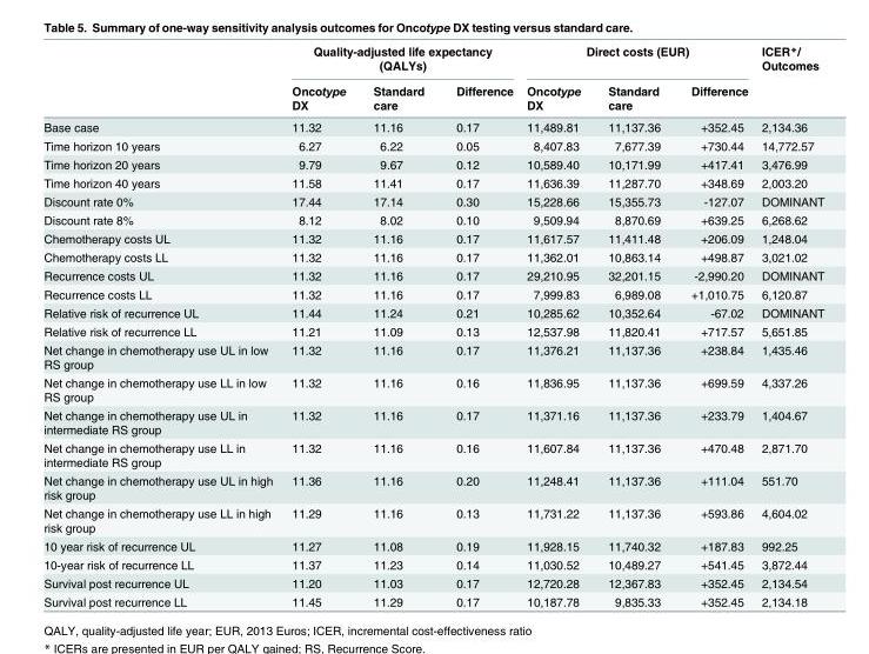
<table><thead><tr><td rowspan="2"></td><td colspan="3">Quality-adjusted life expectancy (QALYs)</td><td colspan="3">Direct costs (EUR)</td><td rowspan="2">ICER*/ Outcomes</td></tr><tr><td>Oncotype DX</td><td>Standard care</td><td>Difference</td><td>Oncotype DX</td><td>Standard care</td><td>Difference</td></tr></thead><tbody><tr><td>Base case</td><td>11.32</td><td>11.16</td><td>0.17</td><td>11,489.81</td><td>11,137.36</td><td>+352.45</td><td>2,134.36</td></tr><tr><td>Time horizon 10 years</td><td>6.27</td><td>6.22</td><td>0.05</td><td>8,407.83</td><td>7,677.39</td><td>+730.44</td><td>14,772.57</td></tr><tr><td>Time horizon 20 years</td><td>9.79</td><td>9.67</td><td>0.12</td><td>10,589.40</td><td>10,171.99</td><td>+417.41</td><td>3,476.99</td></tr><tr><td>Time horizon 40 years</td><td>11.58</td><td>11.41</td><td>0.17</td><td>11,636.39</td><td>11,287.70</td><td>+348.69</td><td>2,003.20</td></tr><tr><td>Discount rate 0%</td><td>17.44</td><td>17.14</td><td>0.30</td><td>15,228.66</td><td>15,355.73</td><td>-127.07</td><td>DOMINANT</td></tr><tr><td>Discount rate 8%</td><td>8.12</td><td>8.02</td><td>0.10</td><td>9,509.94</td><td>8,870.69</td><td>+639.25</td><td>6,268.62</td></tr><tr><td>Chemotherapy costs UL</td><td>11.32</td><td>11.16</td><td>0.17</td><td>11,617.57</td><td>11,411.48</td><td>+206.09</td><td>1,248.04</td></tr><tr><td>Chemotherapy costs LL</td><td>11.32</td><td>11.16</td><td>0.17</td><td>11,362.01</td><td>10,863.14</td><td>+498.87</td><td>3,021.02</td></tr><tr><td>Recurrence costs UL</td><td>11.32</td><td>11.16</td><td>0.17</td><td>29,210.95</td><td>32,201.15</td><td>-2,990.20</td><td>DOMINANT</td></tr><tr><td>Recurrence costs LL</td><td>11.32</td><td>11.16</td><td>0.17</td><td>7,999.83</td><td>6,989.08</td><td>+1,010.75</td><td>6,120.87</td></tr><tr><td>Relative risk of recurrence UL</td><td>11.44</td><td>11.24</td><td>0.21</td><td>10,285.62</td><td>10,352.64</td><td>-67.02</td><td>DOMINANT</td></tr><tr><td>Relative risk of recurrence LL</td><td>11.21</td><td>11.09</td><td>0.13</td><td>12,537.98</td><td>11,820.41</td><td>+717.57</td><td>5,651.85</td></tr><tr><td>Net change in chemotherapy use UL in low RS group</td><td>11.32</td><td>11.16</td><td>0.17</td><td>11,376.21</td><td>11,137.36</td><td>+238.84</td><td>1,435.46</td></tr><tr><td>Net change in chemotherapy use LL in low RS group</td><td>11.32</td><td>11.16</td><td>0.16</td><td>11,836.95</td><td>11,137.36</td><td>+699.59</td><td>4,337.26</td></tr><tr><td>Net change in chemotherapy use UL in intermediate RS group</td><td>11.32</td><td>11.16</td><td>0.17</td><td>11,371.16</td><td>11,137.36</td><td>+233.79</td><td>1,404.67</td></tr><tr><td>Net change in chemotherapy use LL in intermediate RS group</td><td>11.32</td><td>11.16</td><td>0.16</td><td>11,607.84</td><td>11,137.36</td><td>+470.48</td><td>2,871.70</td></tr><tr><td>Net change in chemotherapy use UL in high risk group</td><td>11.36</td><td>11.16</td><td>0.20</td><td>11,248.41</td><td>11,137.36</td><td>+111.04</td><td>551.70</td></tr><tr><td>Net change in chemotherapy use LL in high risk group</td><td>11.29</td><td>11.16</td><td>0.13</td><td>11,731.22</td><td>11,137.36</td><td>+593.86</td><td>4,604.02</td></tr><tr><td>10 year risk of recurrence UL</td><td>11.27</td><td>11.08</td><td>0.19</td><td>11,928.15</td><td>11,740.32</td><td>+187.83</td><td>992.25</td></tr><tr><td>10-year risk of recurrence LL</td><td>11.37</td><td>11.23</td><td>0.14</td><td>11,030.52</td><td>10,489.27</td><td>+541.45</td><td>3,872.44</td></tr><tr><td>Survival post recurrence UL</td><td>11.20</td><td>11.03</td><td>0.17</td><td>12,720.28</td><td>12,367.83</td><td>+352.45</td><td>2,134.54</td></tr><tr><td>Survival post recurrence LL</td><td>11.45</td><td>11.29</td><td>0.17</td><td>10,187.78</td><td>9,835.33</td><td>+352.45</td><td>2,134.18</td></tr></tbody></table>